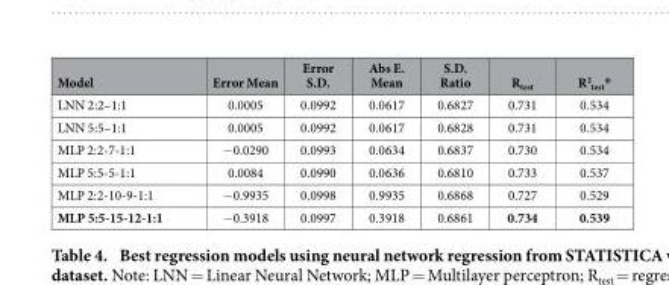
<table><thead><tr><td>Model</td><td>Error Mean</td><td>Error S.D.</td><td>Abs E. Mean</td><td>S.D. Ratio</td><td>R<sub>test</sub></td><td>R<sup>2</sup> <sub>test</sub>*</td></tr></thead><tbody><tr><td>LNN 2:2–1:1</td><td>0.0005</td><td>0.0992</td><td>0.0617</td><td>0.6827</td><td>0.731</td><td>0.534</td></tr><tr><td>LNN 5:5–1:1</td><td>0.0005</td><td>0.0992</td><td>0.0617</td><td>0.6828</td><td>0.731</td><td>0.534</td></tr><tr><td>MLP 2:2-7-1:1</td><td>− 0.0290</td><td>0.0993</td><td>0.0634</td><td>0.6837</td><td>0.730</td><td>0.534</td></tr><tr><td>MLP 5:5-5-1:1</td><td>0.0084</td><td>0.0990</td><td>0.0636</td><td>0.6810</td><td>0.733</td><td>0.537</td></tr><tr><td>MLP 2:2-10-9-1:1</td><td>− 0.9935</td><td>0.0998</td><td>0.9935</td><td>0.6868</td><td>0.727</td><td>0.529</td></tr><tr><td>MLP 5:5-15-12-1:1</td><td>− 0.3918</td><td>0.0997</td><td>0.3918</td><td>0.6861</td><td>0.734</td><td>0.539</td></tr></tbody></table>